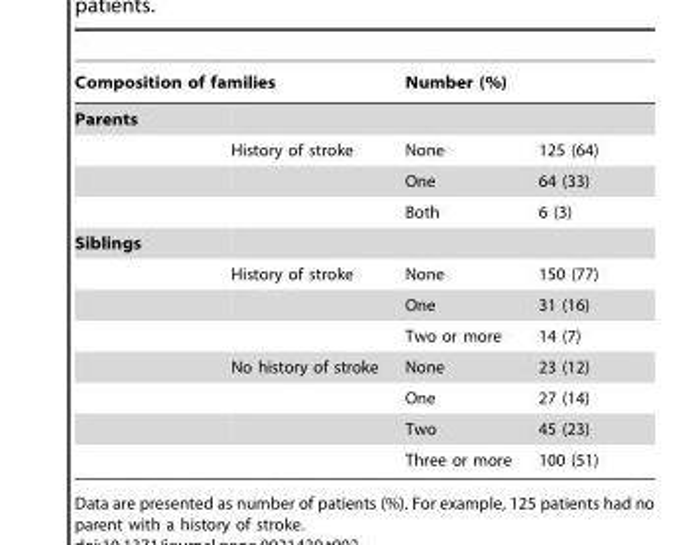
<table><thead><tr><td colspan="2">Composition of families</td><td rowspan="2" colspan="2">Number (%)</td></tr><tr><td rowspan="2">Parents</td><td rowspan="2">History of stroke</td></tr><tr><td>None</td><td>125 (64)</td></tr></thead><tbody><tr><td></td><td></td><td>One</td><td>64 (33)</td></tr><tr><td></td><td></td><td>Both</td><td>6 (3)</td></tr><tr><td colspan="4">Siblings</td></tr><tr><td></td><td>History of stroke</td><td>None</td><td>150 (77)</td></tr><tr><td></td><td></td><td>One</td><td>31 (16)</td></tr><tr><td></td><td></td><td>Two or more</td><td>14 (7)</td></tr><tr><td></td><td>No history of stroke</td><td>None</td><td>23 (12)</td></tr><tr><td></td><td></td><td>One</td><td>27 (14)</td></tr><tr><td></td><td></td><td>Two</td><td>45 (23)</td></tr><tr><td></td><td></td><td>Three or more</td><td>100 (51)</td></tr></tbody></table>